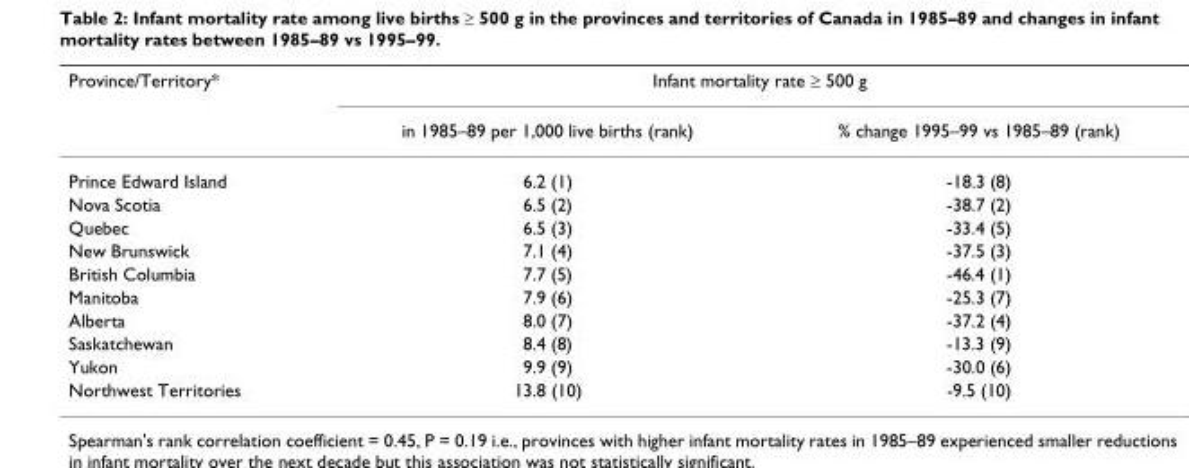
<table><thead><tr><td rowspan="2">Province/Territory*</td><td colspan="2">Infant mortality rate ≥ 500 g</td></tr><tr><td>in 1985–89 per 1,000 live births (rank)</td><td>% change 1995–99 vs 1985–89 (rank)</td></tr></thead><tbody><tr><td>Prince Edward Island</td><td>6.2 (1)</td><td>-18.3 (8)</td></tr><tr><td>Nova Scotia</td><td>6.5 (2)</td><td>-38.7 (2)</td></tr><tr><td>Quebec</td><td>6.5 (3)</td><td>-33.4 (5)</td></tr><tr><td>New Brunswick</td><td>7.1 (4)</td><td>-37.5 (3)</td></tr><tr><td>British Columbia</td><td>7.7 (5)</td><td>-46.4 (1)</td></tr><tr><td>Manitoba</td><td>7.9 (6)</td><td>-25.3 (7)</td></tr><tr><td>Alberta</td><td>8.0 (7)</td><td>-37.2 (4)</td></tr><tr><td>Saskatchewan</td><td>8.4 (8)</td><td>-13.3 (9)</td></tr><tr><td>Yukon</td><td>9.9 (9)</td><td>-30.0 (6)</td></tr><tr><td>Northwest Territories</td><td>13.8 (10)</td><td>-9.5 (10)</td></tr></tbody></table>